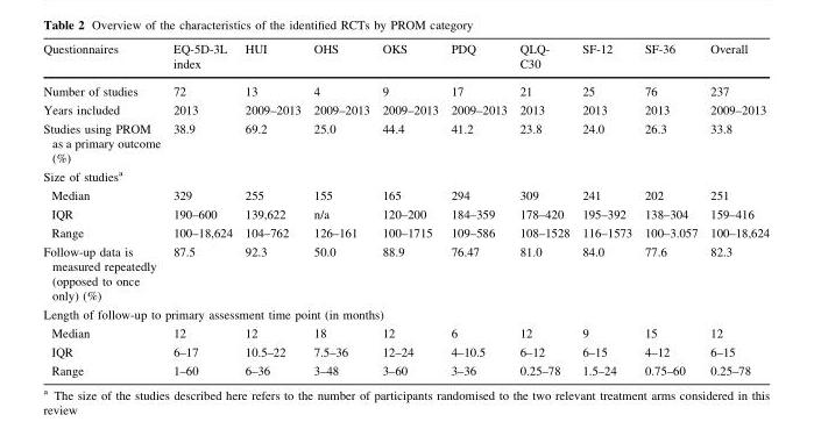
<table><thead><tr><td>Questionnaires</td><td>EQ-5D-3L index</td><td>HUI</td><td>OHS</td><td>OKS</td><td>PDQ</td><td>QLQ- C30</td><td>SF-12</td><td>SF-36</td><td>Overall</td></tr></thead><tbody><tr><td>Number of studies</td><td>72</td><td>13</td><td>4</td><td>9</td><td>17</td><td>21</td><td>25</td><td>76</td><td>237</td></tr><tr><td>Years included</td><td>2013</td><td>2009–2013</td><td>2009–2013</td><td>2009–2013</td><td>2009–2013</td><td>2013</td><td>2013</td><td>2013</td><td>2009–2013</td></tr><tr><td>Studies using PROM as a primary outcome (%)</td><td>38.9</td><td>69.2</td><td>25.0</td><td>44.4</td><td>41.2</td><td>23.8</td><td>24.0</td><td>26.3</td><td>33.8</td></tr><tr><td colspan="10">Size of studies<sup>a</sup></td></tr><tr><td>Median</td><td>329</td><td>255</td><td>155</td><td>165</td><td>294</td><td>309</td><td>241</td><td>202</td><td>251</td></tr><tr><td>IQR</td><td>190–600</td><td>139,622</td><td>n/a</td><td>120–200</td><td>184–359</td><td>178–420</td><td>195–392</td><td>138–304</td><td>159–416</td></tr><tr><td>Range</td><td>100–18,624</td><td>104–762</td><td>126–161</td><td>100–1715</td><td>109–586</td><td>108–1528</td><td>116–1573</td><td>100–3.057</td><td>100–18,624</td></tr><tr><td>Follow-up data is measured repeatedly (opposed to once only) (%)</td><td>87.5</td><td>92.3</td><td>50.0</td><td>88.9</td><td>76.47</td><td>81.0</td><td>84.0</td><td>77.6</td><td>82.3</td></tr><tr><td colspan="10">Length of follow-up to primary assessment time point (in months)</td></tr><tr><td>Median</td><td>12</td><td>12</td><td>18</td><td>12</td><td>6</td><td>12</td><td>9</td><td>15</td><td>12</td></tr><tr><td>IQR</td><td>6–17</td><td>10.5–22</td><td>7.5–36</td><td>12–24</td><td>4–10.5</td><td>6–12</td><td>6–15</td><td>4–12</td><td>6–15</td></tr><tr><td>Range</td><td>1–60</td><td>6–36</td><td>3–48</td><td>3–60</td><td>3–36</td><td>0.25–78</td><td>1.5–24</td><td>0.75–60</td><td>0.25–78</td></tr></tbody></table>